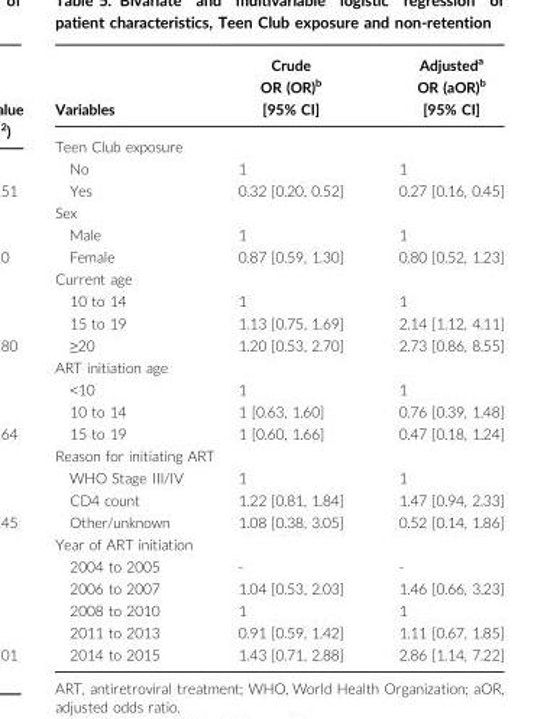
<table><thead><tr><td>Variables</td><td>Crude OR (OR)<sup>b</sup> [95% CI]</td><td>Adjusted<sup>a</sup> OR (aOR)<sup>b</sup> [95% CI]</td></tr></thead><tbody><tr><td colspan="3">Teen Club exposure</td></tr><tr><td>No</td><td>1</td><td>1</td></tr><tr><td>Yes</td><td>0.32 [0.20, 0.52]</td><td>0.27 [0.16, 0.45]</td></tr><tr><td colspan="3">Sex</td></tr><tr><td>Male</td><td>1</td><td>1</td></tr><tr><td>Female</td><td>0.87 [0.59, 1.30]</td><td>0.80 [0.52, 1.23]</td></tr><tr><td colspan="3">Current age</td></tr><tr><td>10 to 14</td><td>1</td><td>1</td></tr><tr><td>15 to 19</td><td>1.13 [0.75, 1.69]</td><td>2.14 [1.12, 4.11]</td></tr><tr><td>≥20</td><td>1.20 [0.53, 2.70]</td><td>2.73 [0.86, 8.55]</td></tr><tr><td colspan="3">ART initiation age</td></tr><tr><td>&lt;10</td><td>1</td><td>1</td></tr><tr><td>10 to 14</td><td>1 [0.63, 1.60]</td><td>0.76 [0.39, 1.48]</td></tr><tr><td>15 to 19</td><td>1 [0.60, 1.66]</td><td>0.47 [0.18, 1.24]</td></tr><tr><td colspan="3">Reason for initiating ART</td></tr><tr><td>WHO Stage III/IV</td><td>1</td><td>1</td></tr><tr><td>CD4 count</td><td>1.22 [0.81, 1.84]</td><td>1.47 [0.94, 2.33]</td></tr><tr><td>Other/unknown</td><td>1.08 [0.38, 3.05]</td><td>0.52 [0.14, 1.86]</td></tr><tr><td colspan="3">Year of ART initiation</td></tr><tr><td>2004 to 2005</td><td>-</td><td>-</td></tr><tr><td>2006 to 2007</td><td>1.04 [0.53, 2.03]</td><td>1.46 [0.66, 3.23]</td></tr><tr><td>2008 to 2010</td><td>1</td><td>1</td></tr><tr><td>2011 to 2013</td><td>0.91 [0.59, 1.42]</td><td>1.11 [0.67, 1.85]</td></tr><tr><td>2014 to 2015</td><td>1.43 [0.71, 2.88]</td><td>2.86 [1.14, 7.22]</td></tr></tbody></table>